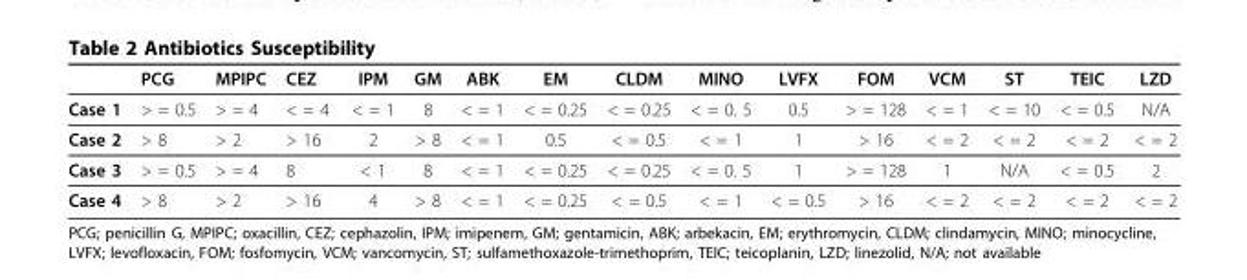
<table><thead><tr><td></td><td>PCG</td><td>MPIPC</td><td>CEZ</td><td>IPM</td><td>GM</td><td>ABK</td><td>EM</td><td>CLDM</td><td>MINO</td><td>LVFX</td><td>FOM</td><td>VCM</td><td>ST</td><td>TEIC</td><td>LZD</td></tr></thead><tbody><tr><td>Case 1</td><td>&gt; = 0.5</td><td>&gt; = 4</td><td>&lt; = 4</td><td>&lt; = 1</td><td>8</td><td>&lt; = 1</td><td>&lt; = 0.25</td><td>&lt; = 0.25</td><td>&lt; = 0. 5</td><td>0.5</td><td>&gt; = 128</td><td>&lt; = 1</td><td>&lt; = 10</td><td>&lt; = 0.5</td><td>N/A</td></tr><tr><td>Case 2</td><td>&gt; 8</td><td>&gt; 2</td><td>&gt; 16</td><td>2</td><td>&gt; 8</td><td>&lt; = 1</td><td>0.5</td><td>&lt; = 0.5</td><td>&lt; = 1</td><td>1</td><td>&gt; 16</td><td>&lt; = 2</td><td>&lt; = 2</td><td>&lt; = 2</td><td>&lt; = 2</td></tr><tr><td>Case 3</td><td>&gt; = 0.5</td><td>&gt; = 4</td><td>8</td><td>&lt; 1</td><td>8</td><td>&lt; = 1</td><td>&lt; = 0.25</td><td>&lt; = 0.25</td><td>&lt; = 0. 5</td><td>1</td><td>&gt; = 128</td><td>1</td><td>N/A</td><td>&lt; = 0.5</td><td>2</td></tr><tr><td>Case 4</td><td>&gt; 8</td><td>&gt; 2</td><td>&gt; 16</td><td>4</td><td>&gt; 8</td><td>&lt; = 1</td><td>&lt; = 0.25</td><td>&lt; = 0.5</td><td>&lt; = 1</td><td>&lt; = 0.5</td><td>&gt; 16</td><td>&lt; = 2</td><td>&lt; = 2</td><td>&lt; = 2</td><td>&lt; = 2</td></tr></tbody></table>